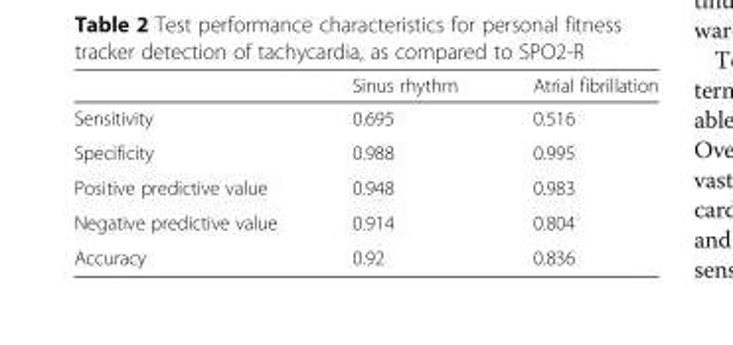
<table><thead><tr><td></td><td>Sinus rhythm</td><td>Atrial fibrillation</td></tr></thead><tbody><tr><td>Sensitivity</td><td>0.695</td><td>0.516</td></tr><tr><td>Specificity</td><td>0.988</td><td>0.995</td></tr><tr><td>Positive predictive value</td><td>0.948</td><td>0.983</td></tr><tr><td>Negative predictive value</td><td>0.914</td><td>0.804</td></tr><tr><td>Accuracy</td><td>0.92</td><td>0.836</td></tr></tbody></table>